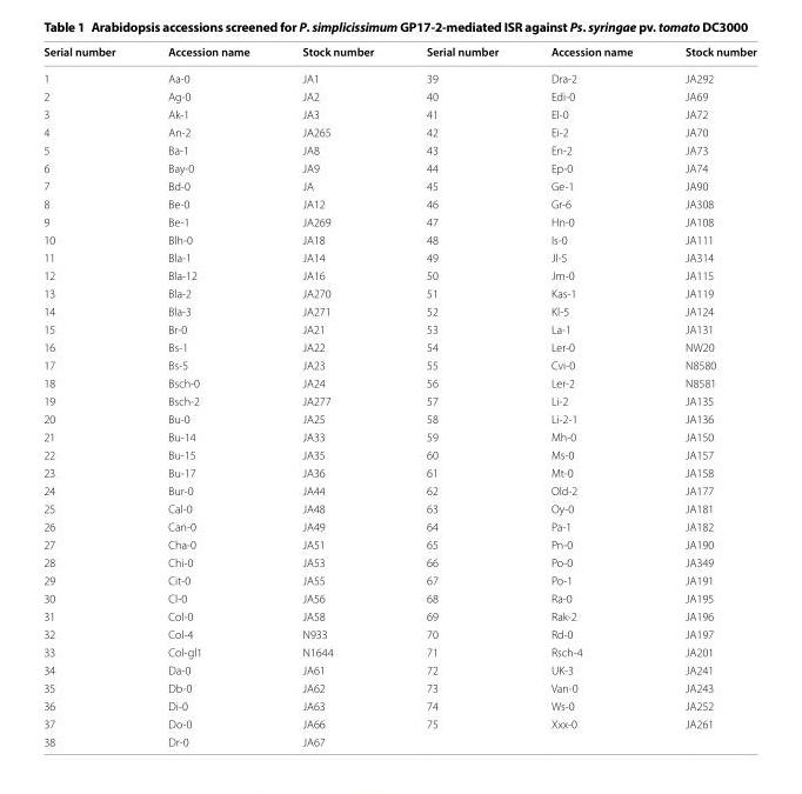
<table><thead><tr><td>Serial number</td><td>Accession name</td><td>Stock number</td><td>Serial number</td><td>Accession name</td><td>Stock number</td></tr></thead><tbody><tr><td>1</td><td>Aa-0</td><td>JA1</td><td>39</td><td>Dra-2</td><td>JA292</td></tr><tr><td>2</td><td>Ag-0</td><td>JA2</td><td>40</td><td>Edi-0</td><td>JA69</td></tr><tr><td>3</td><td>Ak-1</td><td>JA3</td><td>41</td><td>El-0</td><td>JA72</td></tr><tr><td>4</td><td>An-2</td><td>JA265</td><td>42</td><td>Ei-2</td><td>JA70</td></tr><tr><td>5</td><td>Ba-1</td><td>JA8</td><td>43</td><td>En-2</td><td>JA73</td></tr><tr><td>6</td><td>Bay-0</td><td>JA9</td><td>44</td><td>Ep-0</td><td>JA74</td></tr><tr><td>7</td><td>Bd-0</td><td>JA</td><td>45</td><td>Ge-1</td><td>JA90</td></tr><tr><td>8</td><td>Be-0</td><td>JA12</td><td>46</td><td>Gr-6</td><td>JA308</td></tr><tr><td>9</td><td>Be-1</td><td>JA269</td><td>47</td><td>Hn-0</td><td>JA108</td></tr><tr><td>10</td><td>Blh-0</td><td>JA18</td><td>48</td><td>Is-0</td><td>JA111</td></tr><tr><td>11</td><td>Bla-1</td><td>JA14</td><td>49</td><td>Jl-5</td><td>JA314</td></tr><tr><td>12</td><td>Bla-12</td><td>JA16</td><td>50</td><td>Jm-0</td><td>JA115</td></tr><tr><td>13</td><td>Bla-2</td><td>JA270</td><td>51</td><td>Kas-1</td><td>JA119</td></tr><tr><td>14</td><td>Bla-3</td><td>JA271</td><td>52</td><td>Kl-5</td><td>JA124</td></tr><tr><td>15</td><td>Br-0</td><td>JA21</td><td>53</td><td>La-1</td><td>JA131</td></tr><tr><td>16</td><td>Bs-1</td><td>JA22</td><td>54</td><td>Ler-0</td><td>NW20</td></tr><tr><td>17</td><td>Bs-5</td><td>JA23</td><td>55</td><td>Cvi-0</td><td>N8580</td></tr><tr><td>18</td><td>Bsch-0</td><td>JA24</td><td>56</td><td>Ler-2</td><td>N8581</td></tr><tr><td>19</td><td>Bsch-2</td><td>JA277</td><td>57</td><td>Li-2</td><td>JA135</td></tr><tr><td>20</td><td>Bu-0</td><td>JA25</td><td>58</td><td>Li-2-1</td><td>JA136</td></tr><tr><td>21</td><td>Bu-14</td><td>JA33</td><td>59</td><td>Mh-0</td><td>JA150</td></tr><tr><td>22</td><td>Bu-15</td><td>JA35</td><td>60</td><td>Ms-0</td><td>JA157</td></tr><tr><td>23</td><td>Bu-17</td><td>JA36</td><td>61</td><td>Mt-0</td><td>JA158</td></tr><tr><td>24</td><td>Bur-0</td><td>JA44</td><td>62</td><td>Old-2</td><td>JA177</td></tr><tr><td>25</td><td>Cal-0</td><td>JA48</td><td>63</td><td>Oy-0</td><td>JA181</td></tr><tr><td>26</td><td>Can-0</td><td>JA49</td><td>64</td><td>Pa-1</td><td>JA182</td></tr><tr><td>27</td><td>Cha-0</td><td>JA51</td><td>65</td><td>Pn-0</td><td>JA190</td></tr><tr><td>28</td><td>Chi-0</td><td>JA53</td><td>66</td><td>Po-0</td><td>JA349</td></tr><tr><td>29</td><td>Cit-0</td><td>JA55</td><td>67</td><td>Po-1</td><td>JA191</td></tr><tr><td>30</td><td>Cl-0</td><td>JA56</td><td>68</td><td>Ra-0</td><td>JA195</td></tr><tr><td>31</td><td>Col-0</td><td>JA58</td><td>69</td><td>Rak-2</td><td>JA196</td></tr><tr><td>32</td><td>Col-4</td><td>N933</td><td>70</td><td>Rd-0</td><td>JA197</td></tr><tr><td>33</td><td>Col-gl1</td><td>N1644</td><td>71</td><td>Rsch-4</td><td>JA201</td></tr><tr><td>34</td><td>Da-0</td><td>JA61</td><td>72</td><td>UK-3</td><td>JA241</td></tr><tr><td>35</td><td>Db-0</td><td>JA62</td><td>73</td><td>Van-0</td><td>JA243</td></tr><tr><td>36</td><td>Di-0</td><td>JA63</td><td>74</td><td>Ws-0</td><td>JA252</td></tr><tr><td>37</td><td>Do-0</td><td>JA66</td><td rowspan="2">75</td><td rowspan="2">Xxx-0</td><td rowspan="2">JA261</td></tr><tr><td>38</td><td>Dr-0</td><td>JA67</td></tr></tbody></table>